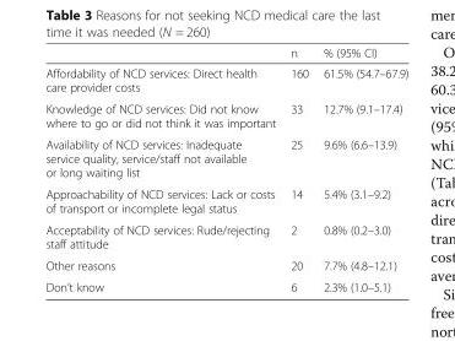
<table><thead><tr><td></td><td>n</td><td>% (95% CI)</td></tr></thead><tbody><tr><td>Affordability of NCD services: Direct health care provider costs</td><td>160</td><td>61.5% (54.7–67.9)</td></tr><tr><td>Knowledge of NCD services: Did not know where to go or did not think it was important</td><td>33</td><td>12.7% (9.1–17.4)</td></tr><tr><td>Availability of NCD services: Inadequate service quality, service/staff not available or long waiting list</td><td>25</td><td>9.6% (6.6–13.9)</td></tr><tr><td>Approachability of NCD services: Lack or costs of transport or incomplete legal status</td><td>14</td><td>5.4% (3.1–9.2)</td></tr><tr><td>Acceptability of NCD services: Rude/rejecting staff attitude</td><td>2</td><td>0.8% (0.2–3.0)</td></tr><tr><td>Other reasons</td><td>20</td><td>7.7% (4.8–12.1)</td></tr><tr><td>Don’t know</td><td>6</td><td>2.3% (1.0–5.1)</td></tr></tbody></table>